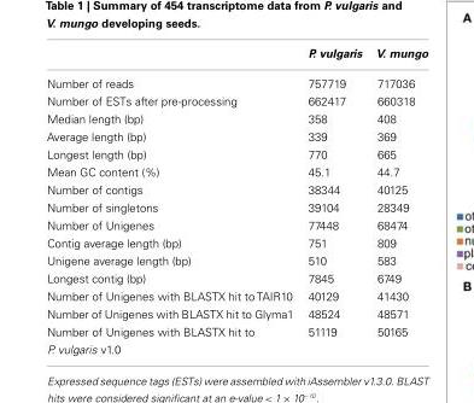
<table><thead><tr><td></td><td>P. vulgaris</td><td>V. mungo</td></tr></thead><tbody><tr><td>Number of reads</td><td>757719</td><td>717036</td></tr><tr><td>Number of ESTs after pre-processing</td><td>662417</td><td>660318</td></tr><tr><td>Median length (bp)</td><td>358</td><td>408</td></tr><tr><td>Average length (bp)</td><td>339</td><td>369</td></tr><tr><td>Longest length (bp)</td><td>770</td><td>665</td></tr><tr><td>Mean GC content (%)</td><td>45.1</td><td>44.7</td></tr><tr><td>Number of contigs</td><td>38344</td><td>40125</td></tr><tr><td>Number of singletons</td><td>39104</td><td>28349</td></tr><tr><td>Number of Unigenes</td><td>77448</td><td>68474</td></tr><tr><td>Contig average length (bp)</td><td>751</td><td>809</td></tr><tr><td>Unigene average length (bp)</td><td>510</td><td>583</td></tr><tr><td>Longest contig (bp)</td><td>7845</td><td>6749</td></tr><tr><td>Number of Unigenes with BLASTX hit to TAIR10</td><td>40129</td><td>41430</td></tr><tr><td>Number of Unigenes with BLASTX hit to Glyma1</td><td>48524</td><td>48571</td></tr><tr><td>Number of Unigenes with BLASTX hit to P. vulgaris v1.0</td><td>51119</td><td>50165</td></tr></tbody></table>